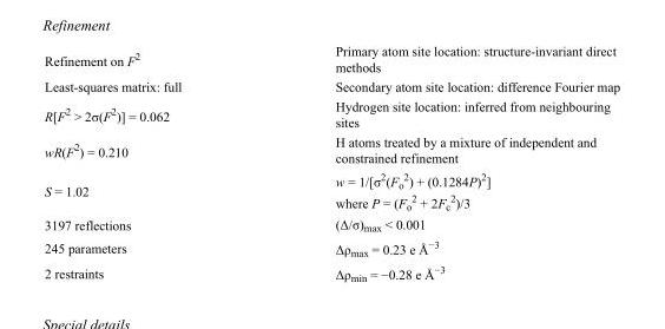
<table><tbody><tr><td>Refinement on F<sup>2</sup></td><td>Primary atom site location: structure-invariant direct methods</td></tr><tr><td>Least-squares matrix: full</td><td>Secondary atom site location: difference Fourier map</td></tr><tr><td>R[F<sup>2</sup> &gt; 2σ(F<sup>2</sup>)] = 0.062</td><td>Hydrogen site location: inferred from neighbouring sites</td></tr><tr><td>wR(F<sup>2</sup>) = 0.210</td><td>H atoms treated by a mixture of independent and constrained refinement</td></tr><tr><td>S = 1.02</td><td>w = 1/[σ<sup>2</sup>(F<sub>o</sub> <sup>2</sup>) + (0.1284P)<sup>2</sup>] where P = (F<sub>o</sub> <sup>2</sup> + 2F<sub>c</sub> <sup>2</sup>)/3</td></tr><tr><td>3197 reflections</td><td>(Δ/σ)<sub>max</sub> &lt; 0.001</td></tr><tr><td>245 parameters</td><td>Δρ<sub>max</sub> = 0.23 e Å<sup>−3</sup></td></tr><tr><td>2 restraints</td><td>Δρ<sub>min</sub> = −0.28 e Å<sup>−3</sup></td></tr></tbody></table>